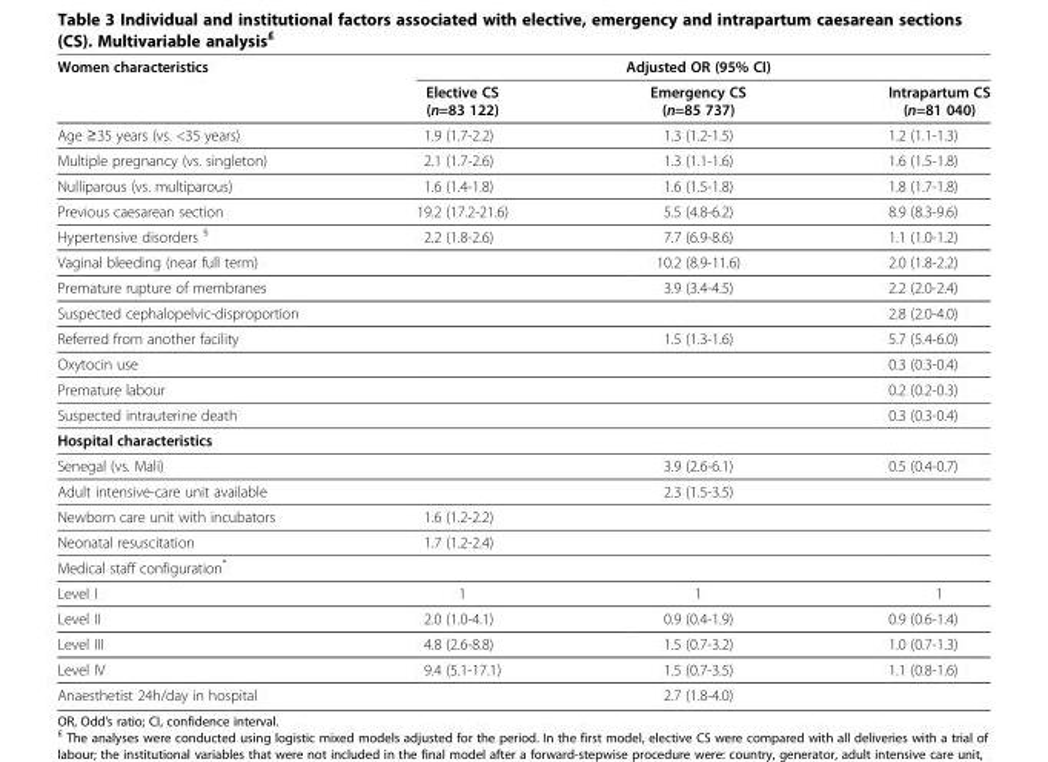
<table><thead><tr><td rowspan="2">Women characteristics</td><td rowspan="2">Elective CS (n=83 122)</td><td rowspan="2">Adjusted OR (95% CI) Emergency CS (n=85 737)</td><td rowspan="2">Intrapartum CS (n=81 040)</td></tr><tr></tr></thead><tbody><tr><td>Age ≥35 years (vs. &lt;35 years)</td><td>1.9 (1.7-2.2)</td><td>1.3 (1.2-1.5)</td><td>1.2 (1.1-1.3)</td></tr><tr><td>Multiple pregnancy (vs. singleton)</td><td>2.1 (1.7-2.6)</td><td>1.3 (1.1-1.6)</td><td>1.6 (1.5-1.8)</td></tr><tr><td>Nulliparous (vs. multiparous)</td><td>1.6 (1.4-1.8)</td><td>1.6 (1.5-1.8)</td><td>1.8 (1.7-1.8)</td></tr><tr><td>Previous caesarean section</td><td>19.2 (17.2-21.6)</td><td>5.5 (4.8-6.2)</td><td>8.9 (8.3-9.6)</td></tr><tr><td>Hypertensive disorders <sup>§</sup></td><td>2.2 (1.8-2.6)</td><td>7.7 (6.9-8.6)</td><td>1.1 (1.0-1.2)</td></tr><tr><td>Vaginal bleeding (near full term)</td><td></td><td>10.2 (8.9-11.6)</td><td>2.0 (1.8-2.2)</td></tr><tr><td>Premature rupture of membranes</td><td></td><td>3.9 (3.4-4.5)</td><td>2.2 (2.0-2.4)</td></tr><tr><td>Suspected cephalopelvic-disproportion</td><td></td><td></td><td>2.8 (2.0-4.0)</td></tr><tr><td>Referred from another facility</td><td></td><td>1.5 (1.3-1.6)</td><td>5.7 (5.4-6.0)</td></tr><tr><td>Oxytocin use</td><td></td><td></td><td>0.3 (0.3-0.4)</td></tr><tr><td>Premature labour</td><td></td><td></td><td>0.2 (0.2-0.3)</td></tr><tr><td>Suspected intrauterine death</td><td></td><td></td><td>0.3 (0.3-0.4)</td></tr><tr><td colspan="4">Hospital characteristics</td></tr><tr><td>Senegal (vs. Mali)</td><td></td><td>3.9 (2.6-6.1)</td><td>0.5 (0.4-0.7)</td></tr><tr><td>Adult intensive-care unit available</td><td></td><td>2.3 (1.5-3.5)</td><td></td></tr><tr><td>Newborn care unit with incubators</td><td>1.6 (1.2-2.2)</td><td></td><td></td></tr><tr><td>Neonatal resuscitation</td><td>1.7 (1.2-2.4)</td><td></td><td></td></tr><tr><td colspan="4">Medical staff configuration*</td></tr><tr><td>Level I</td><td>1</td><td>1</td><td>1</td></tr><tr><td>Level II</td><td>2.0 (1.0-4.1)</td><td>0.9 (0.4-1.9)</td><td>0.9 (0.6-1.4)</td></tr><tr><td>Level III</td><td>4.8 (2.6-8.8)</td><td>1.5 (0.7-3.2)</td><td>1.0 (0.7-1.3)</td></tr><tr><td>Level IV</td><td>9.4 (5.1-17.1)</td><td>1.5 (0.7-3.5)</td><td>1.1 (0.8-1.6)</td></tr><tr><td>Anaesthetist 24h/day in hospital</td><td></td><td>2.7 (1.8-4.0)</td><td></td></tr></tbody></table>